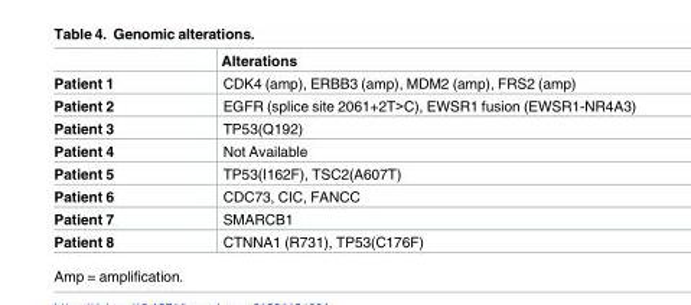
<table><thead><tr><td></td><td>Alterations</td></tr></thead><tbody><tr><td>Patient 1</td><td>CDK4 (amp), ERBB3 (amp), MDM2 (amp), FRS2 (amp)</td></tr><tr><td>Patient 2</td><td>EGFR (splice site 2061+2T&gt;C), EWSR1 fusion (EWSR1-NR4A3)</td></tr><tr><td>Patient 3</td><td>TP53(Q192)</td></tr><tr><td>Patient 4</td><td>Not Available</td></tr><tr><td>Patient 5</td><td>TP53(I162F), TSC2(A607T)</td></tr><tr><td>Patient 6</td><td>CDC73, CIC, FANCC</td></tr><tr><td>Patient 7</td><td>SMARCB1</td></tr><tr><td>Patient 8</td><td>CTNNA1 (R731), TP53(C176F)</td></tr></tbody></table>